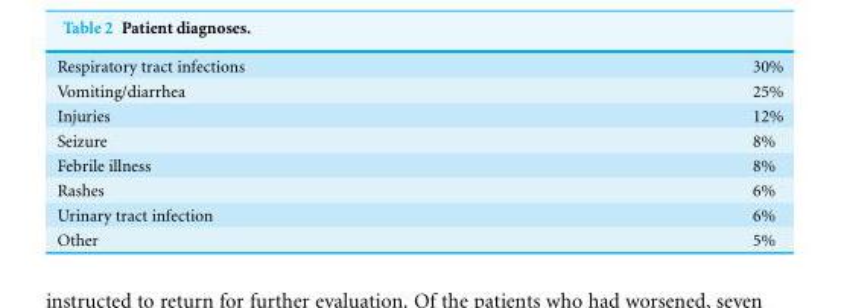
<table><tbody><tr><td>Respiratory tract infections</td><td>30%</td></tr><tr><td>Vomiting/diarrhea</td><td>25%</td></tr><tr><td>Injuries</td><td>12%</td></tr><tr><td>Seizure</td><td>8%</td></tr><tr><td>Febrile illness</td><td>8%</td></tr><tr><td>Rashes</td><td>6%</td></tr><tr><td>Urinary tract infection</td><td>6%</td></tr><tr><td>Other</td><td>5%</td></tr></tbody></table>